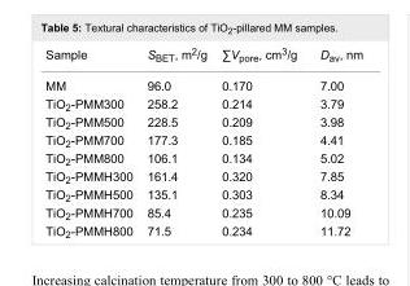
<table><tbody><tr><td>Sample</td><td>S<sub>BET</sub>, m<sup>2</sup>/g</td><td>∑V<sub>pore</sub>, cm<sup>3</sup>/g</td><td>D<sub>av</sub>, nm</td></tr><tr><td>MM</td><td>96.0</td><td>0.170</td><td>7.00</td></tr><tr><td>TiO<sub>2</sub>-PMM300</td><td>258.2</td><td>0.214</td><td>3.79</td></tr><tr><td>TiO<sub>2</sub>-PMM500</td><td>228.5</td><td>0.209</td><td>3.98</td></tr><tr><td>TiO<sub>2</sub>-PMM700</td><td>177.3</td><td>0.185</td><td>4.41</td></tr><tr><td>TiO<sub>2</sub>-PMM800</td><td>106.1</td><td>0.134</td><td>5.02</td></tr><tr><td>TiO<sub>2</sub>-PMMН300</td><td>161.4</td><td>0.320</td><td>7.85</td></tr><tr><td>TiO<sub>2</sub>-PMMН500</td><td>135.1</td><td>0.303</td><td>8.34</td></tr><tr><td>TiO<sub>2</sub>-PMMН700</td><td>85.4</td><td>0.235</td><td>10.09</td></tr><tr><td>TiO<sub>2</sub>-PMMН800</td><td>71.5</td><td>0.234</td><td>11.72</td></tr></tbody></table>